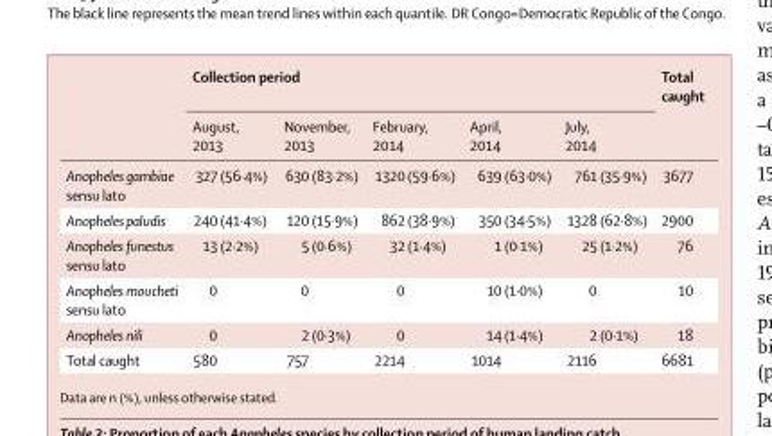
<table><thead><tr><td rowspan="2"></td><td colspan="5">Collection period</td><td rowspan="2">Total caught</td></tr><tr><td>August, 2013</td><td>November, 2013</td><td>February, 2014</td><td>April, 2014</td><td>July, 2014</td></tr></thead><tbody><tr><td>Anopheles gambiae sensu lato</td><td>327 (56·4%)</td><td>630 (83·2%)</td><td>1320 (59·6%)</td><td>639 (63·0%)</td><td>761 (35·9%)</td><td>3677</td></tr><tr><td>Anopheles paludis</td><td>240 (41·4%)</td><td>120 (15·9%)</td><td>862 (38·9%)</td><td>350 (34·5%)</td><td>1328 (62·8%)</td><td>2900</td></tr><tr><td>Anopheles funestus sensu lato</td><td>13 (2·2%)</td><td>5 (0·6%)</td><td>32 (1·4%)</td><td>1 (0·1%)</td><td>25 (1·2%)</td><td>76</td></tr><tr><td>Anopheles moucheti sensu lato</td><td>0</td><td>0</td><td>0</td><td>10 (1·0%)</td><td>0</td><td>10</td></tr><tr><td>Anopheles nili</td><td>0</td><td>2 (0·3%)</td><td>0</td><td>14 (1·4%)</td><td>2 (0·1%)</td><td>18</td></tr><tr><td>Total caught</td><td>580</td><td>757</td><td>2214</td><td>1014</td><td>2116</td><td>6681</td></tr></tbody></table>